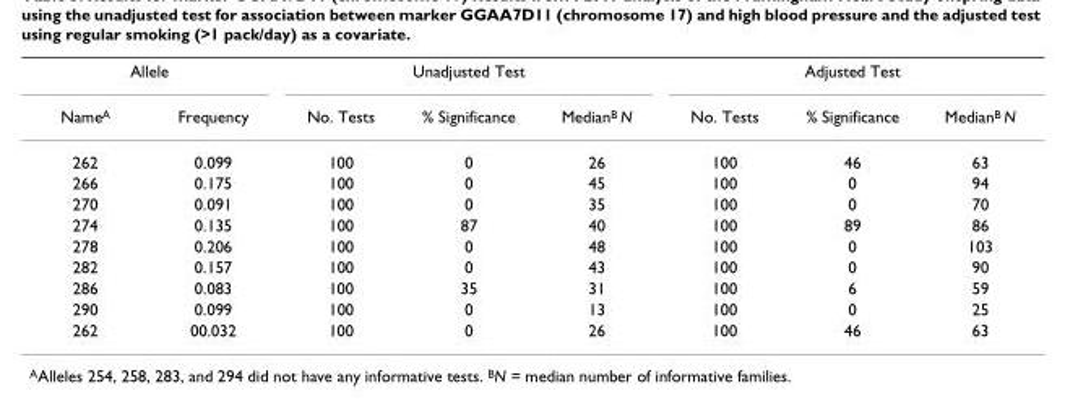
<table><thead><tr><td colspan="2">Allele</td><td colspan="3">Unadjusted Test</td><td colspan="3">Adjusted Test</td></tr><tr><td>NameA</td><td>Frequency</td><td>No. Tests</td><td>% Significance</td><td>MedianB N</td><td>No. Tests</td><td>% Significance</td><td>MedianB N</td></tr></thead><tbody><tr><td>262</td><td>0.099</td><td>100</td><td>0</td><td>26</td><td>100</td><td>46</td><td>63</td></tr><tr><td>266</td><td>0.175</td><td>100</td><td>0</td><td>45</td><td>100</td><td>0</td><td>94</td></tr><tr><td>270</td><td>0.091</td><td>100</td><td>0</td><td>35</td><td>100</td><td>0</td><td>70</td></tr><tr><td>274</td><td>0.135</td><td>100</td><td>87</td><td>40</td><td>100</td><td>89</td><td>86</td></tr><tr><td>278</td><td>0.206</td><td>100</td><td>0</td><td>48</td><td>100</td><td>0</td><td>103</td></tr><tr><td>282</td><td>0.157</td><td>100</td><td>0</td><td>43</td><td>100</td><td>0</td><td>90</td></tr><tr><td>286</td><td>0.083</td><td>100</td><td>35</td><td>31</td><td>100</td><td>6</td><td>59</td></tr><tr><td>290</td><td>0.099</td><td>100</td><td>0</td><td>13</td><td>100</td><td>0</td><td>25</td></tr><tr><td>262</td><td>00.032</td><td>100</td><td>0</td><td>26</td><td>100</td><td>46</td><td>63</td></tr></tbody></table>